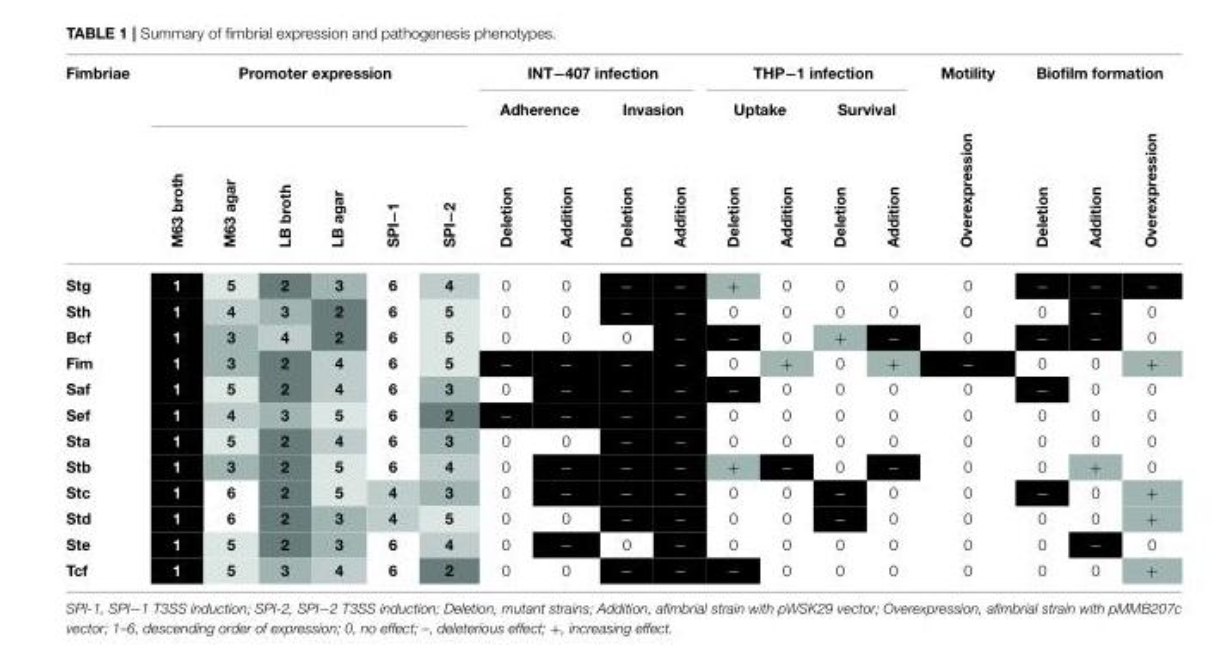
<table><thead><tr><td rowspan="3">Fimbriae</td><td colspan="6">Promoter expression</td><td colspan="4">INT−407 infection</td><td colspan="4">THP−1 infection</td><td rowspan="3">Motility Overexpression</td><td colspan="3">Biofilm formation</td></tr><tr><td rowspan="2">M63 broth</td><td rowspan="2">M63 agar</td><td rowspan="2">LB broth</td><td rowspan="2">LB agar</td><td rowspan="2">SPI−1</td><td rowspan="2">SPI−2</td><td colspan="2">Adherence</td><td colspan="2">Invasion</td><td colspan="2">Uptake</td><td colspan="2">Survival</td><td rowspan="2">Deletion</td><td rowspan="2">Addition</td><td rowspan="2">Overexpression</td></tr><tr><td>Deletion</td><td>Addition</td><td>Deletion</td><td>Addition</td><td>Deletion</td><td>Addition</td><td>Deletion</td><td>Addition</td></tr></thead><tbody><tr><td>Stg</td><td>1</td><td>5</td><td>2</td><td>3</td><td>6</td><td>4</td><td>0</td><td>0</td><td>−</td><td>−</td><td>+</td><td>0</td><td>0</td><td>0</td><td>0</td><td>−</td><td>−</td><td>−</td></tr><tr><td>Sth</td><td>1</td><td>4</td><td>3</td><td>2</td><td>6</td><td>5</td><td>0</td><td>0</td><td>−</td><td>−</td><td>0</td><td>0</td><td>0</td><td>0</td><td>0</td><td>0</td><td>−</td><td>0</td></tr><tr><td>Bcf</td><td>1</td><td>3</td><td>4</td><td>2</td><td>6</td><td>5</td><td>0</td><td>0</td><td>0</td><td>−</td><td>−</td><td>0</td><td>+</td><td>−</td><td>0</td><td>−</td><td>−</td><td>0</td></tr><tr><td>Fim</td><td>1</td><td>3</td><td>2</td><td>4</td><td>6</td><td>5</td><td>−</td><td>−</td><td>−</td><td>−</td><td>0</td><td>+</td><td>0</td><td>+</td><td>−</td><td>0</td><td>0</td><td>+</td></tr><tr><td>Saf</td><td>1</td><td>5</td><td>2</td><td>4</td><td>6</td><td>3</td><td>0</td><td>−</td><td>−</td><td>−</td><td>−</td><td>0</td><td>0</td><td>0</td><td>0</td><td>−</td><td>0</td><td>0</td></tr><tr><td>Sef</td><td>1</td><td>4</td><td>3</td><td>5</td><td>6</td><td>2</td><td>−</td><td>−</td><td>−</td><td>−</td><td>0</td><td>0</td><td>0</td><td>0</td><td>0</td><td>0</td><td>0</td><td>0</td></tr><tr><td>Sta</td><td>1</td><td>5</td><td>2</td><td>4</td><td>6</td><td>3</td><td>0</td><td>0</td><td>−</td><td>−</td><td>0</td><td>0</td><td>0</td><td>0</td><td>0</td><td>0</td><td>0</td><td>0</td></tr><tr><td>Stb</td><td>1</td><td>3</td><td>2</td><td>5</td><td>6</td><td>4</td><td>0</td><td>−</td><td>−</td><td>−</td><td>+</td><td>−</td><td>0</td><td>−</td><td>0</td><td>0</td><td>+</td><td>0</td></tr><tr><td>Stc</td><td>1</td><td>6</td><td>2</td><td>5</td><td>4</td><td>3</td><td>0</td><td>−</td><td>−</td><td>−</td><td>0</td><td>0</td><td>−</td><td>0</td><td>0</td><td>−</td><td>0</td><td>+</td></tr><tr><td>Std</td><td>1</td><td>6</td><td>2</td><td>3</td><td>4</td><td>5</td><td>0</td><td>0</td><td>−</td><td>−</td><td>0</td><td>0</td><td>−</td><td>0</td><td>0</td><td>0</td><td>0</td><td>+</td></tr><tr><td>Ste</td><td>1</td><td>5</td><td>2</td><td>3</td><td>6</td><td>4</td><td>0</td><td>−</td><td>0</td><td>−</td><td>0</td><td>0</td><td>0</td><td>0</td><td>0</td><td>0</td><td>−</td><td>0</td></tr><tr><td>Tcf</td><td>1</td><td>5</td><td>3</td><td>4</td><td>6</td><td>2</td><td>0</td><td>0</td><td>−</td><td>−</td><td>−</td><td>0</td><td>0</td><td>0</td><td>0</td><td>0</td><td>0</td><td>+</td></tr></tbody></table>